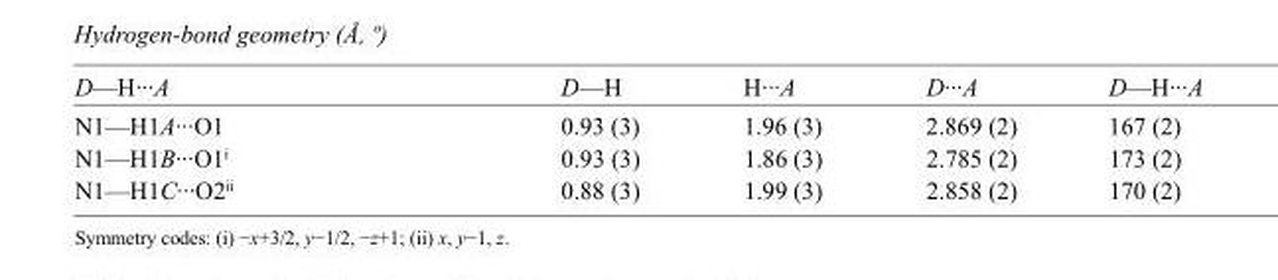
<table><tbody><tr><td>D—H···A</td><td>D—H</td><td>H···A</td><td>D···A</td><td>D—H···A</td></tr><tr><td>N1—H1A···O1</td><td>0.93 (3)</td><td>1.96 (3)</td><td>2.869 (2)</td><td>167 (2)</td></tr><tr><td>N1—H1B···O1<sup>i</sup></td><td>0.93 (3)</td><td>1.86 (3)</td><td>2.785 (2)</td><td>173 (2)</td></tr><tr><td>N1—H1C···O2<sup>ii</sup></td><td>0.88 (3)</td><td>1.99 (3)</td><td>2.858 (2)</td><td>170 (2)</td></tr></tbody></table>